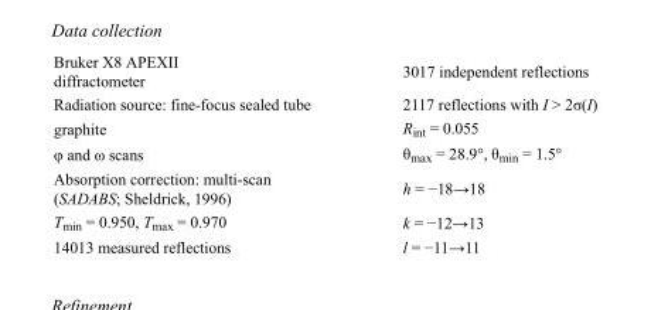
<table><tbody><tr><td>Bruker X8 APEXII diffractometer</td><td>3017 independent reflections</td></tr><tr><td>Radiation source: fine-focus sealed tube</td><td>2117 reflections with I &gt; 2σ(I)</td></tr><tr><td>graphite</td><td>R<sub>int</sub> = 0.055</td></tr><tr><td>φ and ω scans</td><td>θ<sub>max</sub> = 28.9°, θ<sub>min</sub> = 1.5°</td></tr><tr><td>Absorption correction: multi-scan (SADABS; Sheldrick, 1996)</td><td>h = −18→18</td></tr><tr><td>T<sub>min</sub> = 0.950, T<sub>max</sub> = 0.970</td><td>k = −12→13</td></tr><tr><td>14013 measured reflections</td><td>l = −11→11</td></tr></tbody></table>